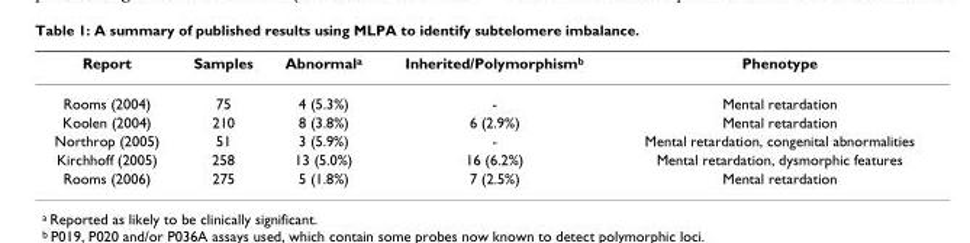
<table><thead><tr><td>Report</td><td>Samples</td><td>Abnormal<sup>a</sup></td><td>Inherited/Polymorphism<sup>b</sup></td><td>Phenotype</td></tr></thead><tbody><tr><td>Rooms (2004)</td><td>75</td><td>4 (5.3%)</td><td>-</td><td>Mental retardation</td></tr><tr><td>Koolen (2004)</td><td>210</td><td>8 (3.8%)</td><td>6 (2.9%)</td><td>Mental retardation</td></tr><tr><td>Northrop (2005)</td><td>51</td><td>3 (5.9%)</td><td>-</td><td>Mental retardation, congenital abnormalities</td></tr><tr><td>Kirchhoff (2005)</td><td>258</td><td>13 (5.0%)</td><td>16 (6.2%)</td><td>Mental retardation, dysmorphic features</td></tr><tr><td>Rooms (2006)</td><td>275</td><td>5 (1.8%)</td><td>7 (2.5%)</td><td>Mental retardation</td></tr></tbody></table>